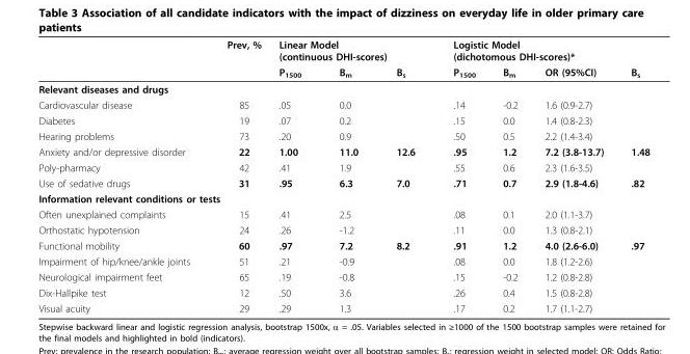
<table><thead><tr><td rowspan="2"></td><td rowspan="2">Prev, %</td><td colspan="3">Linear Model (continuous DHI-scores)</td><td colspan="4">Logistic Model (dichotomous DHI-scores)*</td></tr><tr><td>P<sub>1500</sub></td><td>B<sub>m</sub></td><td>B<sub>s</sub></td><td>P<sub>1500</sub></td><td>B<sub>m</sub></td><td>OR (95%CI)</td><td>B<sub>s</sub></td></tr></thead><tbody><tr><td colspan="9">Relevant diseases and drugs</td></tr><tr><td>Cardiovascular disease</td><td>85</td><td>.05</td><td>0.0</td><td></td><td>.14</td><td>-0.2</td><td>1.6 (0.9-2.7)</td><td></td></tr><tr><td>Diabetes</td><td>19</td><td>.07</td><td>0.2</td><td></td><td>.15</td><td>0.0</td><td>1.4 (0.8-2.3)</td><td></td></tr><tr><td>Hearing problems</td><td>73</td><td>.20</td><td>0.9</td><td></td><td>.50</td><td>0.5</td><td>2.2 (1.4-3.4)</td><td></td></tr><tr><td>Anxiety and/or depressive disorder</td><td>22</td><td>1.00</td><td>11.0</td><td>12.6</td><td>.95</td><td>1.2</td><td>7.2 (3.8-13.7)</td><td>1.48</td></tr><tr><td>Poly-pharmacy</td><td>42</td><td>.41</td><td>1.9</td><td></td><td>.55</td><td>0.6</td><td>2.3 (1.6-3.5)</td><td></td></tr><tr><td>Use of sedative drugs</td><td>31</td><td>.95</td><td>6.3</td><td>7.0</td><td>.71</td><td>0.7</td><td>2.9 (1.8-4.6)</td><td>.82</td></tr><tr><td colspan="9">Information relevant conditions or tests</td></tr><tr><td>Often unexplained complaints</td><td>15</td><td>.41</td><td>2.5</td><td></td><td>.08</td><td>0.1</td><td>2.0 (1.1-3.7)</td><td></td></tr><tr><td>Orthostatic hypotension</td><td>24</td><td>.26</td><td>-1.2</td><td></td><td>.11</td><td>0.0</td><td>1.3 (0.8-2.1)</td><td></td></tr><tr><td>Functional mobility</td><td>60</td><td>.97</td><td>7.2</td><td>8.2</td><td>.91</td><td>1.2</td><td>4.0 (2.6-6.0)</td><td>.97</td></tr><tr><td>Impairment of hip/knee/ankle joints</td><td>51</td><td>.21</td><td>-0.9</td><td></td><td>.08</td><td>0.0</td><td>1.8 (1.2-2.6)</td><td></td></tr><tr><td>Neurological impairment feet</td><td>65</td><td>.19</td><td>-0.8</td><td></td><td>.15</td><td>-0.2</td><td>1.2 (0.8-2.8)</td><td></td></tr><tr><td>Dix-Hallpike test</td><td>12</td><td>.50</td><td>3.6</td><td></td><td>.26</td><td>0.4</td><td>1.5 (0.8-2.8)</td><td></td></tr><tr><td>Visual acuity</td><td>29</td><td>.29</td><td>1.3</td><td></td><td>.17</td><td>0.2</td><td>1.7 (1.1-2.7)</td><td></td></tr></tbody></table>